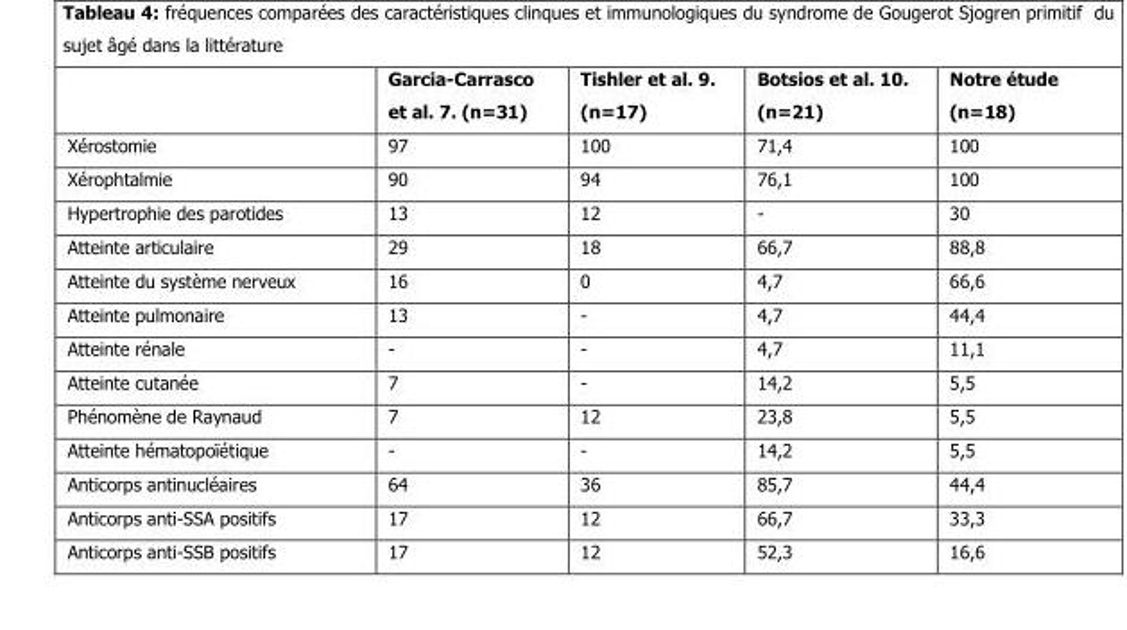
<table><thead><tr><td></td><td>Garcia-Carrasco et al. 7. (n=31)</td><td>Tishler et al. 9. (n=17)</td><td>Botsios et al. 10. (n=21)</td><td>Notre étude (n=18)</td></tr></thead><tbody><tr><td>Xérostomie</td><td>97</td><td>100</td><td>71,4</td><td>100</td></tr><tr><td>Xérophtalmie</td><td>90</td><td>94</td><td>76,1</td><td>100</td></tr><tr><td>Hypertrophie des parotides</td><td>13</td><td>12</td><td>-</td><td>30</td></tr><tr><td>Atteinte articulaire</td><td>29</td><td>18</td><td>66,7</td><td>88,8</td></tr><tr><td>Atteinte du système nerveux</td><td>16</td><td>0</td><td>4,7</td><td>66,6</td></tr><tr><td>Atteinte pulmonaire</td><td>13</td><td>-</td><td>4,7</td><td>44,4</td></tr><tr><td>Atteinte rénale</td><td>-</td><td>-</td><td>4,7</td><td>11,1</td></tr><tr><td>Atteinte cutanée</td><td>7</td><td>-</td><td>14,2</td><td>5,5</td></tr><tr><td>Phénomène de Raynaud</td><td>7</td><td>12</td><td>23,8</td><td>5,5</td></tr><tr><td>Atteinte hématopoïétique</td><td>-</td><td>-</td><td>14,2</td><td>5,5</td></tr><tr><td>Anticorps antinucléaires</td><td>64</td><td>36</td><td>85,7</td><td>44,4</td></tr><tr><td>Anticorps anti-SSA positifs</td><td>17</td><td>12</td><td>66,7</td><td>33,3</td></tr><tr><td>Anticorps anti-SSB positifs</td><td>17</td><td>12</td><td>52,3</td><td>16,6</td></tr></tbody></table>